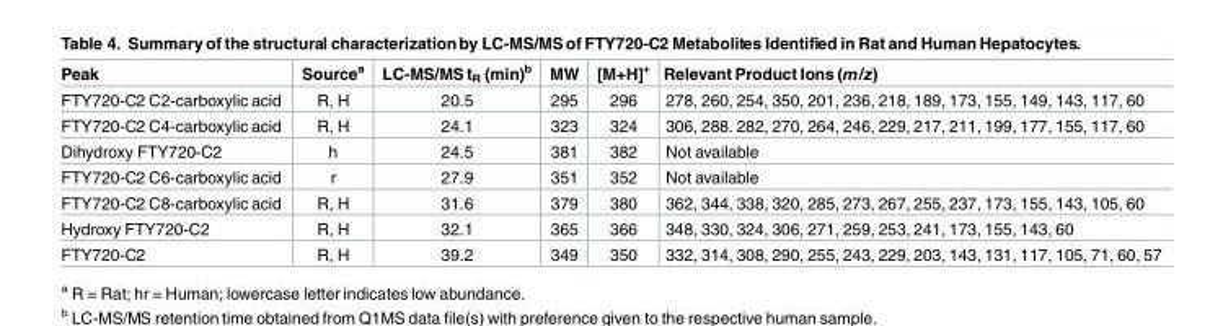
<table><thead><tr><td>Peak</td><td>Source<sup>a</sup></td><td>LC-MS/MS t<sub>R</sub> (min)<sup>b</sup></td><td>MW</td><td>[M+H]<sup>+</sup></td><td>Relevant Product Ions (m/z)</td></tr></thead><tbody><tr><td>FTY720-C2 C2-carboxylic acid</td><td>R, H</td><td>20.5</td><td>295</td><td>296</td><td>278, 260, 254, 350, 201, 236, 218, 189, 173, 155, 149, 143, 117, 60</td></tr><tr><td>FTY720-C2 C4-carboxylic acid</td><td>R, H</td><td>24.1</td><td>323</td><td>324</td><td>306, 288. 282, 270, 264, 246, 229, 217, 211, 199, 177, 155, 117, 60</td></tr><tr><td>Dihydroxy FTY720-C2</td><td>h</td><td>24.5</td><td>381</td><td>382</td><td>Not available</td></tr><tr><td>FTY720-C2 C6-carboxylic acid</td><td>r</td><td>27.9</td><td>351</td><td>352</td><td>Not available</td></tr><tr><td>FTY720-C2 C8-carboxylic acid</td><td>R, H</td><td>31.6</td><td>379</td><td>380</td><td>362, 344, 338, 320, 285, 273, 267, 255, 237, 173, 155, 143, 105, 60</td></tr><tr><td>Hydroxy FTY720-C2</td><td>R, H</td><td>32.1</td><td>365</td><td>366</td><td>348, 330, 324, 306, 271, 259, 253, 241, 173, 155, 143, 60</td></tr><tr><td>FTY720-C2</td><td>R, H</td><td>39.2</td><td>349</td><td>350</td><td>332, 314, 308, 290, 255, 243, 229, 203, 143, 131, 117, 105, 71, 60, 57</td></tr></tbody></table>